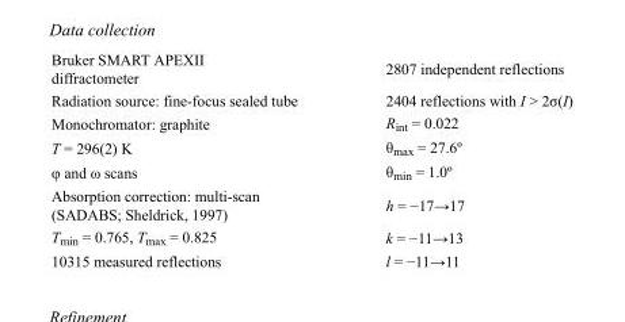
<table><tbody><tr><td>Bruker SMART APEXII diffractometer</td><td>2807 independent reflections</td></tr><tr><td>Radiation source: fine-focus sealed tube</td><td>2404 reflections with I &gt; 2σ(I)</td></tr><tr><td>Monochromator: graphite</td><td>R<sub>int</sub> = 0.022</td></tr><tr><td>T = 296(2) K</td><td>θ<sub>max</sub> = 27.6º</td></tr><tr><td>φ and ω scans</td><td>θ<sub>min</sub> = 1.0º</td></tr><tr><td>Absorption correction: multi-scan (SADABS; Sheldrick, 1997)</td><td>h = −17→17</td></tr><tr><td>T<sub>min</sub> = 0.765, T<sub>max</sub> = 0.825</td><td>k = −11→13</td></tr><tr><td>10315 measured reflections</td><td>l = −11→11</td></tr></tbody></table>